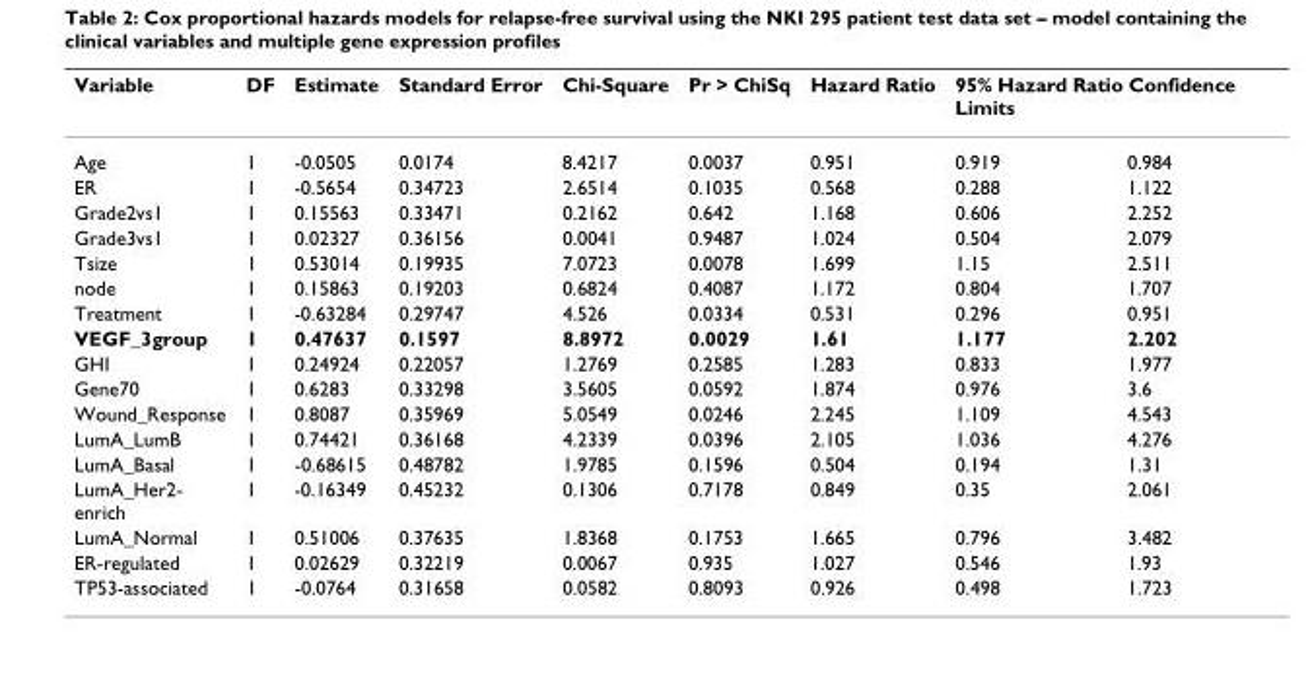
<table><thead><tr><td rowspan="2">Variable Age</td><td rowspan="2">DF 1</td><td rowspan="2">Estimate -0.0505</td><td rowspan="2">Standard Error 0.0174</td><td rowspan="2">Chi-Square 8.4217</td><td rowspan="2">Pr &gt; ChiSq 0.0037</td><td rowspan="2">Hazard Ratio 0.951</td><td colspan="2">95% Hazard Ratio Confidence Limits</td></tr><tr><td>0.919</td><td>0.984</td></tr></thead><tbody><tr><td>ER</td><td>1</td><td>-0.5654</td><td>0.34723</td><td>2.6514</td><td>0.1035</td><td>0.568</td><td>0.288</td><td>1.122</td></tr><tr><td>Grade2vs1</td><td>1</td><td>0.15563</td><td>0.33471</td><td>0.2162</td><td>0.642</td><td>1.168</td><td>0.606</td><td>2.252</td></tr><tr><td>Grade3vs1</td><td>1</td><td>0.02327</td><td>0.36156</td><td>0.0041</td><td>0.9487</td><td>1.024</td><td>0.504</td><td>2.079</td></tr><tr><td>Tsize</td><td>1</td><td>0.53014</td><td>0.19935</td><td>7.0723</td><td>0.0078</td><td>1.699</td><td>1.15</td><td>2.511</td></tr><tr><td>node</td><td>1</td><td>0.15863</td><td>0.19203</td><td>0.6824</td><td>0.4087</td><td>1.172</td><td>0.804</td><td>1.707</td></tr><tr><td>Treatment</td><td>1</td><td>-0.63284</td><td>0.29747</td><td>4.526</td><td>0.0334</td><td>0.531</td><td>0.296</td><td>0.951</td></tr><tr><td>VEGF_3group</td><td>1</td><td>0.47637</td><td>0.1597</td><td>8.8972</td><td>0.0029</td><td>1.61</td><td>1.177</td><td>2.202</td></tr><tr><td>GHI</td><td>1</td><td>0.24924</td><td>0.22057</td><td>1.2769</td><td>0.2585</td><td>1.283</td><td>0.833</td><td>1.977</td></tr><tr><td>Gene70</td><td>1</td><td>0.6283</td><td>0.33298</td><td>3.5605</td><td>0.0592</td><td>1.874</td><td>0.976</td><td>3.6</td></tr><tr><td>Wound_Response</td><td>1</td><td>0.8087</td><td>0.35969</td><td>5.0549</td><td>0.0246</td><td>2.245</td><td>1.109</td><td>4.543</td></tr><tr><td>LumA_LumB</td><td>1</td><td>0.74421</td><td>0.36168</td><td>4.2339</td><td>0.0396</td><td>2.105</td><td>1.036</td><td>4.276</td></tr><tr><td>LumA_Basal</td><td>1</td><td>-0.68615</td><td>0.48782</td><td>1.9785</td><td>0.1596</td><td>0.504</td><td>0.194</td><td>1.31</td></tr><tr><td>LumA_Her2- enrich</td><td>1</td><td>-0.16349</td><td>0.45232</td><td>0.1306</td><td>0.7178</td><td>0.849</td><td>0.35</td><td>2.061</td></tr><tr><td>LumA_Normal</td><td>1</td><td>0.51006</td><td>0.37635</td><td>1.8368</td><td>0.1753</td><td>1.665</td><td>0.796</td><td>3.482</td></tr><tr><td>ER-regulated</td><td>1</td><td>0.02629</td><td>0.32219</td><td>0.0067</td><td>0.935</td><td>1.027</td><td>0.546</td><td>1.93</td></tr><tr><td>TP53-associated</td><td>1</td><td>-0.0764</td><td>0.31658</td><td>0.0582</td><td>0.8093</td><td>0.926</td><td>0.498</td><td>1.723</td></tr></tbody></table>